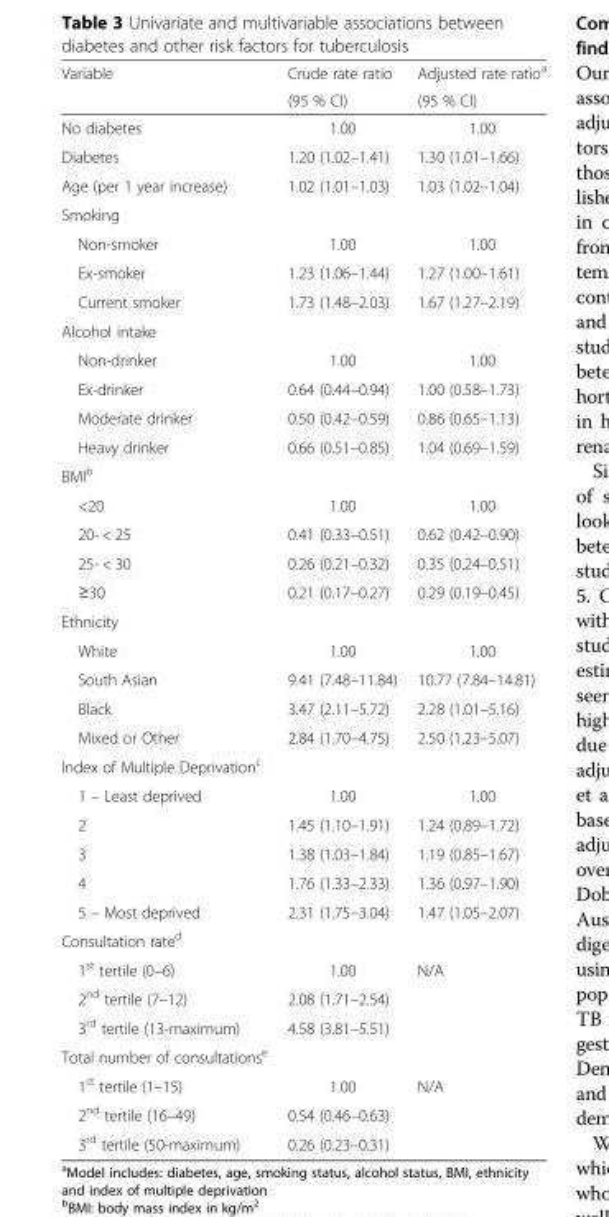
<table><thead><tr><td rowspan="2">Variable</td><td rowspan="2">Crude rate ratio (95 % CI)</td><td rowspan="2">Adjusted rate ratio<sup>a</sup> (95 % CI)</td></tr><tr></tr></thead><tbody><tr><td>No diabetes</td><td>1.00</td><td>1.00</td></tr><tr><td>Diabetes</td><td>1.20 (1.02–1.41)</td><td>1.30 (1.01–1.66)</td></tr><tr><td>Age (per 1 year increase)</td><td>1.02 (1.01–1.03)</td><td>1.03 (1.02–1.04)</td></tr><tr><td colspan="3">Smoking</td></tr><tr><td>Non-smoker</td><td>1.00</td><td>1.00</td></tr><tr><td>Ex-smoker</td><td>1.23 (1.06–1.44)</td><td>1.27 (1.00–1.61)</td></tr><tr><td>Current smoker</td><td>1.73 (1.48–2.03)</td><td>1.67 (1.27–2.19)</td></tr><tr><td colspan="3">Alcohol intake</td></tr><tr><td>Non-drinker</td><td>1.00</td><td>1.00</td></tr><tr><td>Ex-drinker</td><td>0.64 (0.44–0.94)</td><td>1.00 (0.58–1.73)</td></tr><tr><td>Moderate drinker</td><td>0.50 (0.42–0.59)</td><td>0.86 (0.65–1.13)</td></tr><tr><td>Heavy drinker</td><td>0.66 (0.51–0.85)</td><td>1.04 (0.69–1.59)</td></tr><tr><td colspan="3">BMI<sup>b</sup></td></tr><tr><td>&lt;20</td><td>1.00</td><td>1.00</td></tr><tr><td>20- &lt; 25</td><td>0.41 (0.33–0.51)</td><td>0.62 (0.42–0.90)</td></tr><tr><td>25- &lt; 30</td><td>0.26 (0.21–0.32)</td><td>0.35 (0.24–0.51)</td></tr><tr><td>≥30</td><td>0.21 (0.17–0.27)</td><td>0.29 (0.19–0.45)</td></tr><tr><td colspan="3">Ethnicity</td></tr><tr><td>White</td><td>1.00</td><td>1.00</td></tr><tr><td>South Asian</td><td>9.41 (7.48–11.84)</td><td>10.77 (7.84–14.81)</td></tr><tr><td>Black</td><td>3.47 (2.11–5.72)</td><td>2.28 (1.01–5.16)</td></tr><tr><td>Mixed or Other</td><td>2.84 (1.70–4.75)</td><td>2.50 (1.23–5.07)</td></tr><tr><td colspan="3">Index of Multiple Deprivation<sup>c</sup></td></tr><tr><td>1 – Least deprived</td><td>1.00</td><td>1.00</td></tr><tr><td>2</td><td>1.45 (1.10–1.91)</td><td>1.24 (0.89–1.72)</td></tr><tr><td>3</td><td>1.38 (1.03–1.84)</td><td>1.19 (0.85–1.67)</td></tr><tr><td>4</td><td>1.76 (1.33–2.33)</td><td>1.36 (0.97–1.90)</td></tr><tr><td>5 – Most deprived</td><td>2.31 (1.75–3.04)</td><td>1.47 (1.05–2.07)</td></tr><tr><td colspan="3">Consultation rate<sup>d</sup></td></tr><tr><td>1<sup>st</sup> tertile (0–6)</td><td>1.00</td><td>N/A</td></tr><tr><td>2<sup>nd</sup> tertile (7–12)</td><td>2.08 (1.71–2.54)</td><td></td></tr><tr><td>3<sup>rd</sup> tertile (13-maximum)</td><td>4.58 (3.81–5.51)</td><td></td></tr><tr><td colspan="3">Total number of consultations<sup>e</sup></td></tr><tr><td>1<sup>st</sup> tertile (1–15)</td><td>1.00</td><td>N/A</td></tr><tr><td>2<sup>nd</sup> tertile (16–49)</td><td>0.54 (0.46–0.63)</td><td></td></tr><tr><td>3<sup>rd</sup> tertile (50-maximum)</td><td>0.26 (0.23–0.31)</td><td></td></tr></tbody></table>